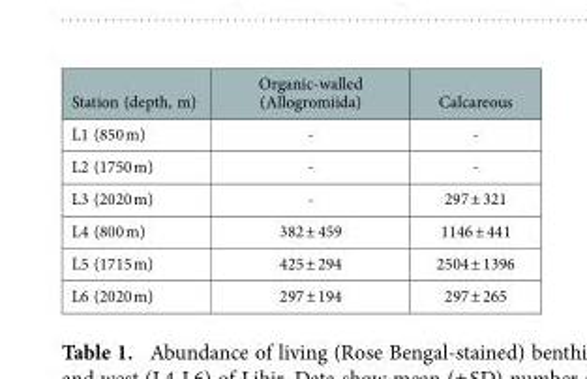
<table><thead><tr><td>Station (depth, m)</td><td>Organic-walled (Allogromiida)</td><td>Calcareous</td></tr></thead><tbody><tr><td>L1 (850 m)</td><td>-</td><td>-</td></tr><tr><td>L2 (1750 m)</td><td>-</td><td>-</td></tr><tr><td>L3 (2020 m)</td><td>-</td><td>297 ± 321</td></tr><tr><td>L4 (800 m)</td><td>382 ± 459</td><td>1146 ± 441</td></tr><tr><td>L5 (1715 m)</td><td>425 ± 294</td><td>2504 ± 1396</td></tr><tr><td>L6 (2020 m)</td><td>297 ± 194</td><td>297 ± 265</td></tr></tbody></table>